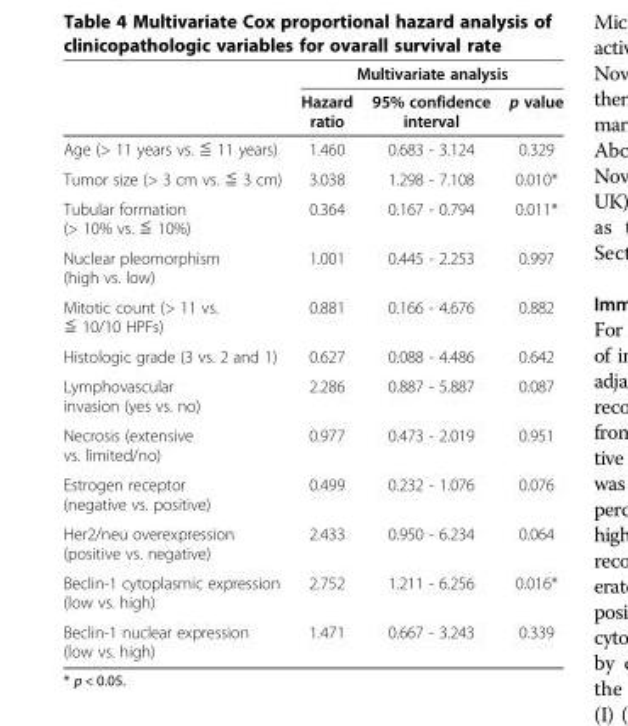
<table><thead><tr><td rowspan="2"></td><td colspan="3">Multivariate analysis</td></tr><tr><td>Hazard ratio</td><td>95% confidence interval</td><td>p value</td></tr></thead><tbody><tr><td>Age (&gt; 11 years vs. ≦ 11 years)</td><td>1.460</td><td>0.683 - 3.124</td><td>0.329</td></tr><tr><td>Tumor size (&gt; 3 cm vs. ≦ 3 cm)</td><td>3.038</td><td>1.298 - 7.108</td><td>0.010*</td></tr><tr><td>Tubular formation (&gt; 10% vs. ≦ 10%)</td><td>0.364</td><td>0.167 - 0.794</td><td>0.011*</td></tr><tr><td>Nuclear pleomorphism (high vs. low)</td><td>1.001</td><td>0.445 - 2.253</td><td>0.997</td></tr><tr><td>Mitotic count (&gt; 11 vs. ≦ 10/10 HPFs)</td><td>0.881</td><td>0.166 - 4.676</td><td>0.882</td></tr><tr><td>Histologic grade (3 vs. 2 and 1)</td><td>0.627</td><td>0.088 - 4.486</td><td>0.642</td></tr><tr><td>Lymphovascular invasion (yes vs. no)</td><td>2.286</td><td>0.887 - 5.887</td><td>0.087</td></tr><tr><td>Necrosis (extensive vs. limited/no)</td><td>0.977</td><td>0.473 - 2.019</td><td>0.951</td></tr><tr><td>Estrogen receptor (negative vs. positive)</td><td>0.499</td><td>0.232 - 1.076</td><td>0.076</td></tr><tr><td>Her2/neu overexpression (positive vs. negative)</td><td>2.433</td><td>0.950 - 6.234</td><td>0.064</td></tr><tr><td>Beclin-1 cytoplasmic expression (low vs. high)</td><td>2.752</td><td>1.211 - 6.256</td><td>0.016*</td></tr><tr><td>Beclin-1 nuclear expression (low vs. high)</td><td>1.471</td><td>0.667 - 3.243</td><td>0.339</td></tr></tbody></table>